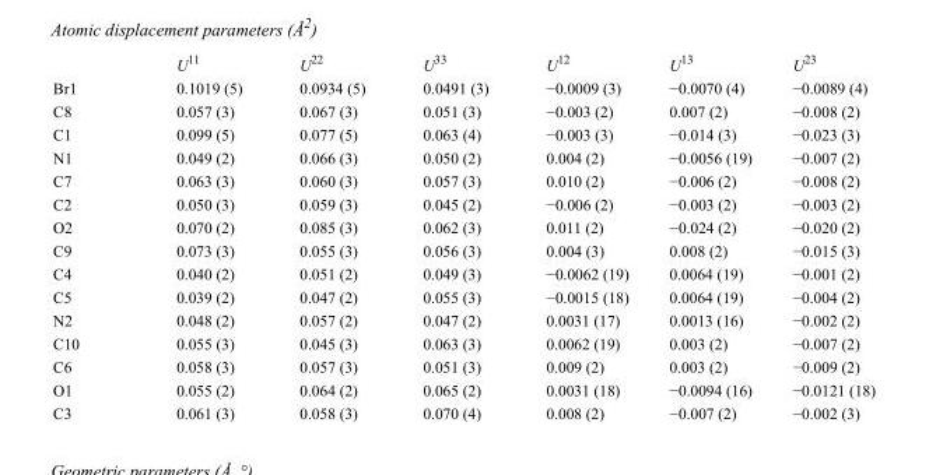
<table><thead><tr><td></td><td>U<sup>11</sup></td><td>U<sup>22</sup></td><td>U<sup>33</sup></td><td>U<sup>12</sup></td><td>U<sup>13</sup></td><td>U<sup>23</sup></td></tr></thead><tbody><tr><td>Br1</td><td>0.1019 (5)</td><td>0.0934 (5)</td><td>0.0491 (3)</td><td>−0.0009 (3)</td><td>−0.0070 (4)</td><td>−0.0089 (4)</td></tr><tr><td>C8</td><td>0.057 (3)</td><td>0.067 (3)</td><td>0.051 (3)</td><td>−0.003 (2)</td><td>0.007 (2)</td><td>−0.008 (2)</td></tr><tr><td>C1</td><td>0.099 (5)</td><td>0.077 (5)</td><td>0.063 (4)</td><td>−0.003 (3)</td><td>−0.014 (3)</td><td>−0.023 (3)</td></tr><tr><td>N1</td><td>0.049 (2)</td><td>0.066 (3)</td><td>0.050 (2)</td><td>0.004 (2)</td><td>−0.0056 (19)</td><td>−0.007 (2)</td></tr><tr><td>C7</td><td>0.063 (3)</td><td>0.060 (3)</td><td>0.057 (3)</td><td>0.010 (2)</td><td>−0.006 (2)</td><td>−0.008 (2)</td></tr><tr><td>C2</td><td>0.050 (3)</td><td>0.059 (3)</td><td>0.045 (2)</td><td>−0.006 (2)</td><td>−0.003 (2)</td><td>−0.003 (2)</td></tr><tr><td>O2</td><td>0.070 (2)</td><td>0.085 (3)</td><td>0.062 (3)</td><td>0.011 (2)</td><td>−0.024 (2)</td><td>−0.020 (2)</td></tr><tr><td>C9</td><td>0.073 (3)</td><td>0.055 (3)</td><td>0.056 (3)</td><td>0.004 (3)</td><td>0.008 (2)</td><td>−0.015 (3)</td></tr><tr><td>C4</td><td>0.040 (2)</td><td>0.051 (2)</td><td>0.049 (3)</td><td>−0.0062 (19)</td><td>0.0064 (19)</td><td>−0.001 (2)</td></tr><tr><td>C5</td><td>0.039 (2)</td><td>0.047 (2)</td><td>0.055 (3)</td><td>−0.0015 (18)</td><td>0.0064 (19)</td><td>−0.004 (2)</td></tr><tr><td>N2</td><td>0.048 (2)</td><td>0.057 (2)</td><td>0.047 (2)</td><td>0.0031 (17)</td><td>0.0013 (16)</td><td>−0.002 (2)</td></tr><tr><td>C10</td><td>0.055 (3)</td><td>0.045 (3)</td><td>0.063 (3)</td><td>0.0062 (19)</td><td>0.003 (2)</td><td>−0.007 (2)</td></tr><tr><td>C6</td><td>0.058 (3)</td><td>0.057 (3)</td><td>0.051 (3)</td><td>0.009 (2)</td><td>0.003 (2)</td><td>−0.009 (2)</td></tr><tr><td>O1</td><td>0.055 (2)</td><td>0.064 (2)</td><td>0.065 (2)</td><td>0.0031 (18)</td><td>−0.0094 (16)</td><td>−0.0121 (18)</td></tr><tr><td>C3</td><td>0.061 (3)</td><td>0.058 (3)</td><td>0.070 (4)</td><td>0.008 (2)</td><td>−0.007 (2)</td><td>−0.002 (3)</td></tr></tbody></table>